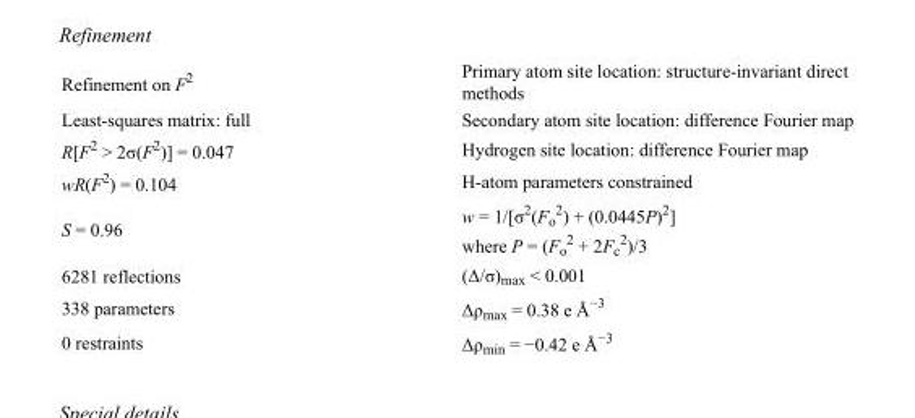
<table><tbody><tr><td>Refinement on F<sup>2</sup></td><td>Primary atom site location: structure-invariant direct methods</td></tr><tr><td>Least-squares matrix: full</td><td>Secondary atom site location: difference Fourier map</td></tr><tr><td>R[F<sup>2</sup> &gt; 2σ(F<sup>2</sup>)] = 0.047</td><td>Hydrogen site location: difference Fourier map</td></tr><tr><td>wR(F<sup>2</sup>) = 0.104</td><td>H-atom parameters constrained</td></tr><tr><td>S = 0.96</td><td>w = 1/[σ<sup>2</sup>(F<sub>o</sub> <sup>2</sup>) + (0.0445P)<sup>2</sup>] where P = (F<sub>o</sub> <sup>2</sup> + 2F<sub>c</sub> <sup>2</sup>)/3</td></tr><tr><td>6281 reflections</td><td>(Δ/σ)<sub>max</sub> &lt; 0.001</td></tr><tr><td>338 parameters</td><td>Δρ<sub>max</sub> = 0.38 e Å<sup>−3</sup></td></tr><tr><td>0 restraints</td><td>Δρ<sub>min</sub> = −0.42 e Å<sup>−3</sup></td></tr></tbody></table>